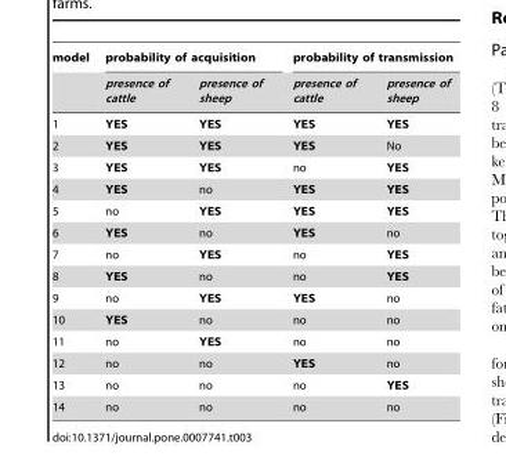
<table><thead><tr><td rowspan="2">model</td><td colspan="2">probability of acquisition</td><td colspan="2">probability of transmission</td></tr><tr><td>presence of cattle</td><td>presence of sheep</td><td>presence of cattle</td><td>presence of sheep</td></tr></thead><tbody><tr><td>1</td><td>YES</td><td>YES</td><td>YES</td><td>YES</td></tr><tr><td>2</td><td>YES</td><td>YES</td><td>YES</td><td>No</td></tr><tr><td>3</td><td>YES</td><td>YES</td><td>no</td><td>YES</td></tr><tr><td>4</td><td>YES</td><td>no</td><td>YES</td><td>YES</td></tr><tr><td>5</td><td>no</td><td>YES</td><td>YES</td><td>YES</td></tr><tr><td>6</td><td>YES</td><td>no</td><td>YES</td><td>no</td></tr><tr><td>7</td><td>no</td><td>YES</td><td>no</td><td>YES</td></tr><tr><td>8</td><td>YES</td><td>no</td><td>no</td><td>YES</td></tr><tr><td>9</td><td>no</td><td>YES</td><td>YES</td><td>no</td></tr><tr><td>10</td><td>YES</td><td>no</td><td>no</td><td>no</td></tr><tr><td>11</td><td>no</td><td>YES</td><td>no</td><td>no</td></tr><tr><td>12</td><td>no</td><td>no</td><td>YES</td><td>no</td></tr><tr><td>13</td><td>no</td><td>no</td><td>no</td><td>YES</td></tr><tr><td>14</td><td>no</td><td>no</td><td>no</td><td>no</td></tr></tbody></table>